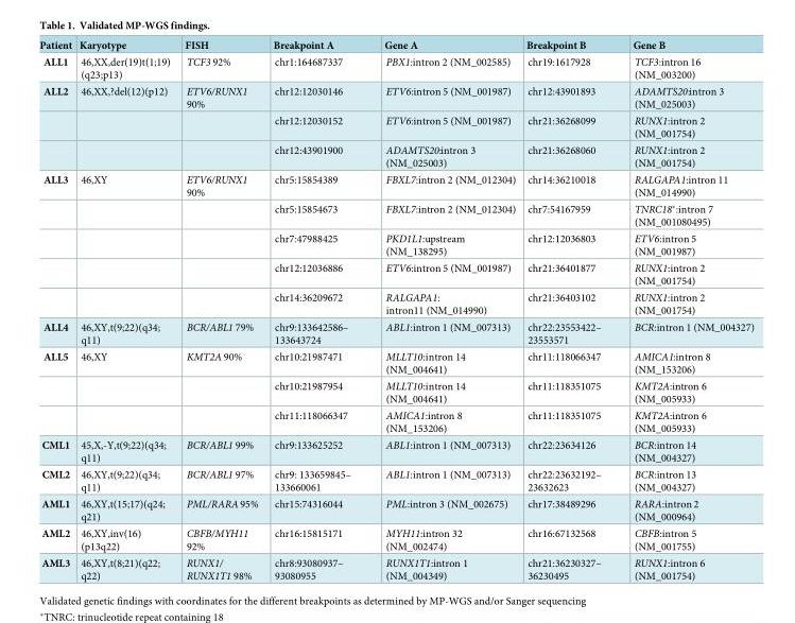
<table><thead><tr><td>Patient</td><td>Karyotype</td><td>FISH</td><td>Breakpoint A</td><td>Gene A</td><td>Breakpoint B</td><td>Gene B</td></tr></thead><tbody><tr><td>ALL1</td><td>46,XX,der(19)t(1;19) (q23;p13)</td><td>TCF3 92%</td><td>chr1:164687337</td><td>PBX1:intron 2 (NM_002585)</td><td>chr19:1617928</td><td>TCF3:intron 16 (NM_003200)</td></tr><tr><td rowspan="3">ALL2</td><td>46,XX,?del(12)(p12)</td><td>ETV6/RUNX1 90%</td><td>chr12:12030146</td><td>ETV6:intron 5 (NM_001987)</td><td>chr12:43901893</td><td>ADAMTS20:intron 3 (NM_025003)</td></tr><tr><td></td><td></td><td>chr12:12030152</td><td>ETV6:intron 5 (NM_001987)</td><td>chr21:36268099</td><td>RUNX1:intron 2 (NM_001754)</td></tr><tr><td></td><td></td><td>chr12:43901900</td><td>ADAMTS20:intron 3 (NM_025003)</td><td>chr21:36268060</td><td>RUNX1:intron 2 (NM_001754)</td></tr><tr><td rowspan="5">ALL3</td><td>46,XY</td><td>ETV6/RUNX1 90%</td><td>chr5:15854389</td><td>FBXL7:intron 2 (NM_012304)</td><td>chr14:36210018</td><td>RALGAPA1:intron 11 (NM_014990)</td></tr><tr><td></td><td></td><td>chr5:15854673</td><td>FBXL7:intron 2 (NM_012304)</td><td>chr7:54167959</td><td>TNRC18*:intron 7 (NM_001080495)</td></tr><tr><td></td><td></td><td>chr7:47988425</td><td>PKD1L1:upstream (NM_138295)</td><td>chr12:12036803</td><td>ETV6:intron 5 (NM_001987)</td></tr><tr><td></td><td></td><td>chr12:12036886</td><td>ETV6:intron 5 (NM_001987)</td><td>chr21:36401877</td><td>RUNX1:intron 2 (NM_001754)</td></tr><tr><td></td><td></td><td>chr14:36209672</td><td>RALGAPA1: intron11 (NM_014990)</td><td>chr21:36403102</td><td>RUNX1:intron 2 (NM_001754)</td></tr><tr><td>ALL4</td><td>46,XY,t(9;22)(q34; q11)</td><td>BCR/ABL1 79%</td><td>chr9:133642586– 133643724</td><td>ABL1:intron 1 (NM_007313)</td><td>chr22:23553422– 23553571</td><td>BCR:intron 1 (NM_004327)</td></tr><tr><td rowspan="3">ALL5</td><td>46,XY</td><td>KMT2A 90%</td><td>chr10:21987471</td><td>MLLT10:intron 14 (NM_004641)</td><td>chr11:118066347</td><td>AMICA1:intron 8 (NM_153206)</td></tr><tr><td></td><td></td><td>chr10:21987954</td><td>MLLT10:intron 14 (NM_004641)</td><td>chr11:118351075</td><td>KMT2A:intron 6 (NM_005933)</td></tr><tr><td></td><td></td><td>chr11:118066347</td><td>AMICA1:intron 8 (NM_153206)</td><td>chr11:118351075</td><td>KMT2A:intron 6 (NM_005933)</td></tr><tr><td>CML1</td><td>45,X,-Y,t(9;22)(q34; q11)</td><td>BCR/ABL1 99%</td><td>chr9:133625252</td><td>ABL1:intron 1 (NM_007313)</td><td>chr22:23634126</td><td>BCR:intron 14 (NM_004327)</td></tr><tr><td>CML2</td><td>46,XY,t(9;22)(q34; q11)</td><td>BCR/ABL1 97%</td><td>chr9: 133659845– 133660061</td><td>ABL1:intron 1 (NM_007313)</td><td>chr22:23632192– 23632623</td><td>BCR:intron 13 (NM_004327)</td></tr><tr><td>AML1</td><td>46,XY,t(15;17)(q24; q21)</td><td>PML/RARA95%</td><td>chr15:74316044</td><td>PML:intron 3 (NM_002675)</td><td>chr17:38489296</td><td>RARA:intron 2 (NM_000964)</td></tr><tr><td>AML2</td><td>46,XY,inv(16) (p13q22)</td><td>CBFB/MYH11 92%</td><td>chr16:15815171</td><td>MYH11:intron 32 (NM_002474)</td><td>chr16:67132568</td><td>CBFB:intron 5 (NM_001755)</td></tr><tr><td>AML3</td><td>46,XY,t(8;21)(q22; q22)</td><td>RUNX1/ RUNX1T1 98%</td><td>chr8:93080937– 93080955</td><td>RUNX1T1:intron 1 (NM_004349)</td><td>chr21:36230327– 36230495</td><td>RUNX1:intron 6 (NM_001754)</td></tr></tbody></table>